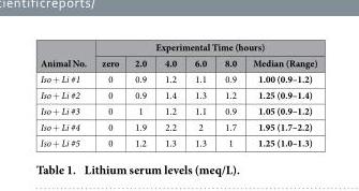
<table><thead><tr><td rowspan="2">Animal No.</td><td colspan="6">Experimental Time (hours)</td></tr><tr><td>zero</td><td>2.0</td><td>4.0</td><td>6.0</td><td>8.0</td><td>Median (Range)</td></tr></thead><tbody><tr><td>Iso + Li #1</td><td>0</td><td>0.9</td><td>1.2</td><td>1.1</td><td>0.9</td><td>1.00 (0.9–1.2)</td></tr><tr><td>Iso + Li #2</td><td>0</td><td>0.9</td><td>1.4</td><td>1.3</td><td>1.2</td><td>1.25 (0.9–1.4)</td></tr><tr><td>Iso + Li #3</td><td>0</td><td>1</td><td>1.2</td><td>1.1</td><td>0.9</td><td>1.05 (0.9–1.2)</td></tr><tr><td>Iso + Li #4</td><td>0</td><td>1.9</td><td>2.2</td><td>2</td><td>1.7</td><td>1.95 (1.7–2.2)</td></tr><tr><td>Iso + Li #5</td><td>0</td><td>1.2</td><td>1.3</td><td>1.3</td><td>1</td><td>1.25 (1.0–1.3)</td></tr></tbody></table>